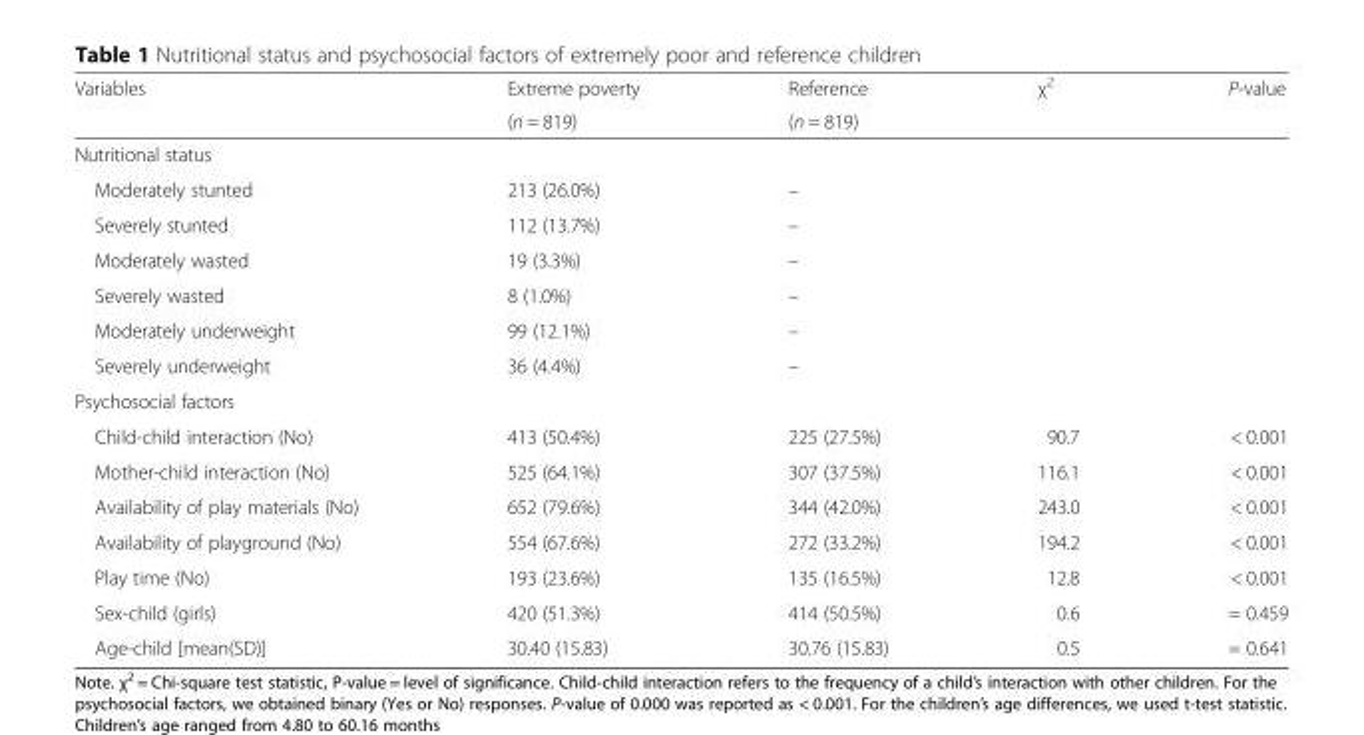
<table><thead><tr><td rowspan="2">Variables</td><td rowspan="2">Extreme poverty (n = 819)</td><td rowspan="2">Reference (n = 819)</td><td rowspan="2">χ<sup>2</sup></td><td rowspan="2">P-value</td></tr><tr></tr></thead><tbody><tr><td colspan="5">Nutritional status</td></tr><tr><td>Moderately stunted</td><td>213 (26.0%)</td><td>–</td><td></td><td></td></tr><tr><td>Severely stunted</td><td>112 (13.7%)</td><td>–</td><td></td><td></td></tr><tr><td>Moderately wasted</td><td>19 (3.3%)</td><td>–</td><td></td><td></td></tr><tr><td>Severely wasted</td><td>8 (1.0%)</td><td>–</td><td></td><td></td></tr><tr><td>Moderately underweight</td><td>99 (12.1%)</td><td>–</td><td></td><td></td></tr><tr><td>Severely underweight</td><td>36 (4.4%)</td><td>–</td><td></td><td></td></tr><tr><td colspan="5">Psychosocial factors</td></tr><tr><td>Child-child interaction (No)</td><td>413 (50.4%)</td><td>225 (27.5%)</td><td>90.7</td><td>&lt; 0.001</td></tr><tr><td>Mother-child interaction (No)</td><td>525 (64.1%)</td><td>307 (37.5%)</td><td>116.1</td><td>&lt; 0.001</td></tr><tr><td>Availability of play materials (No)</td><td>652 (79.6%)</td><td>344 (42.0%)</td><td>243.0</td><td>&lt; 0.001</td></tr><tr><td>Availability of playground (No)</td><td>554 (67.6%)</td><td>272 (33.2%)</td><td>194.2</td><td>&lt; 0.001</td></tr><tr><td>Play time (No)</td><td>193 (23.6%)</td><td>135 (16.5%)</td><td>12.8</td><td>&lt; 0.001</td></tr><tr><td>Sex-child (girls)</td><td>420 (51.3%)</td><td>414 (50.5%)</td><td>0.6</td><td>= 0.459</td></tr><tr><td>Age-child [mean(SD)]</td><td>30.40 (15.83)</td><td>30.76 (15.83)</td><td>0.5</td><td>= 0.641</td></tr></tbody></table>